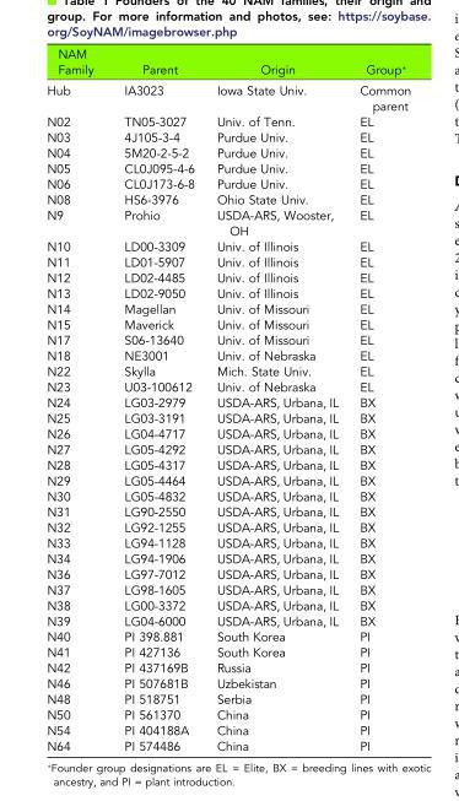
<table><thead><tr><td>NAM Family</td><td>Parent</td><td>Origin</td><td>Group*</td></tr></thead><tbody><tr><td>Hub</td><td>IA3023</td><td>Iowa State Univ.</td><td>Common parent</td></tr><tr><td>N02</td><td>TN05-3027</td><td>Univ. of Tenn.</td><td>EL</td></tr><tr><td>N03</td><td>4J105-3-4</td><td>Purdue Univ.</td><td>EL</td></tr><tr><td>N04</td><td>5M20-2-5-2</td><td>Purdue Univ.</td><td>EL</td></tr><tr><td>N05</td><td>CL0J095-4-6</td><td>Purdue Univ.</td><td>EL</td></tr><tr><td>N06</td><td>CL0J173-6-8</td><td>Purdue Univ.</td><td>EL</td></tr><tr><td>N08</td><td>HS6-3976</td><td>Ohio State Univ.</td><td>EL</td></tr><tr><td>N9</td><td>Prohio</td><td>USDA-ARS, Wooster, OH</td><td>EL</td></tr><tr><td>N10</td><td>LD00-3309</td><td>Univ. of Illinois</td><td>EL</td></tr><tr><td>N11</td><td>LD01-5907</td><td>Univ. of Illinois</td><td>EL</td></tr><tr><td>N12</td><td>LD02-4485</td><td>Univ. of Illinois</td><td>EL</td></tr><tr><td>N13</td><td>LD02-9050</td><td>Univ. of Illinois</td><td>EL</td></tr><tr><td>N14</td><td>Magellan</td><td>Univ. of Missouri</td><td>EL</td></tr><tr><td>N15</td><td>Maverick</td><td>Univ. of Missouri</td><td>EL</td></tr><tr><td>N17</td><td>S06-13640</td><td>Univ. of Missouri</td><td>EL</td></tr><tr><td>N18</td><td>NE3001</td><td>Univ. of Nebraska</td><td>EL</td></tr><tr><td>N22</td><td>Skylla</td><td>Mich. State Univ.</td><td>EL</td></tr><tr><td>N23</td><td>U03-100612</td><td>Univ. of Nebraska</td><td>EL</td></tr><tr><td>N24</td><td>LG03-2979</td><td>USDA-ARS, Urbana, IL</td><td>BX</td></tr><tr><td>N25</td><td>LG03-3191</td><td>USDA-ARS, Urbana, IL</td><td>BX</td></tr><tr><td>N26</td><td>LG04-4717</td><td>USDA-ARS, Urbana, IL</td><td>BX</td></tr><tr><td>N27</td><td>LG05-4292</td><td>USDA-ARS, Urbana, IL</td><td>BX</td></tr><tr><td>N28</td><td>LG05-4317</td><td>USDA-ARS, Urbana, IL</td><td>BX</td></tr><tr><td>N29</td><td>LG05-4464</td><td>USDA-ARS, Urbana, IL</td><td>BX</td></tr><tr><td>N30</td><td>LG05-4832</td><td>USDA-ARS, Urbana, IL</td><td>BX</td></tr><tr><td>N31</td><td>LG90-2550</td><td>USDA-ARS, Urbana, IL</td><td>BX</td></tr><tr><td>N32</td><td>LG92-1255</td><td>USDA-ARS, Urbana, IL</td><td>BX</td></tr><tr><td>N33</td><td>LG94-1128</td><td>USDA-ARS, Urbana, IL</td><td>BX</td></tr><tr><td>N34</td><td>LG94-1906</td><td>USDA-ARS, Urbana, IL</td><td>BX</td></tr><tr><td>N36</td><td>LG97-7012</td><td>USDA-ARS, Urbana, IL</td><td>BX</td></tr><tr><td>N37</td><td>LG98-1605</td><td>USDA-ARS, Urbana, IL</td><td>BX</td></tr><tr><td>N38</td><td>LG00-3372</td><td>USDA-ARS, Urbana, IL</td><td>BX</td></tr><tr><td>N39</td><td>LG04-6000</td><td>USDA-ARS, Urbana, IL</td><td>BX</td></tr><tr><td>N40</td><td>PI 398.881</td><td>South Korea</td><td>PI</td></tr><tr><td>N41</td><td>PI 427136</td><td>South Korea</td><td>PI</td></tr><tr><td>N42</td><td>PI 437169B</td><td>Russia</td><td>PI</td></tr><tr><td>N46</td><td>PI 507681B</td><td>Uzbekistan</td><td>PI</td></tr><tr><td>N48</td><td>PI 518751</td><td>Serbia</td><td>PI</td></tr><tr><td>N50</td><td>PI 561370</td><td>China</td><td>PI</td></tr><tr><td>N54</td><td>PI 404188A</td><td>China</td><td>PI</td></tr><tr><td>N64</td><td>PI 574486</td><td>China</td><td>PI</td></tr></tbody></table>